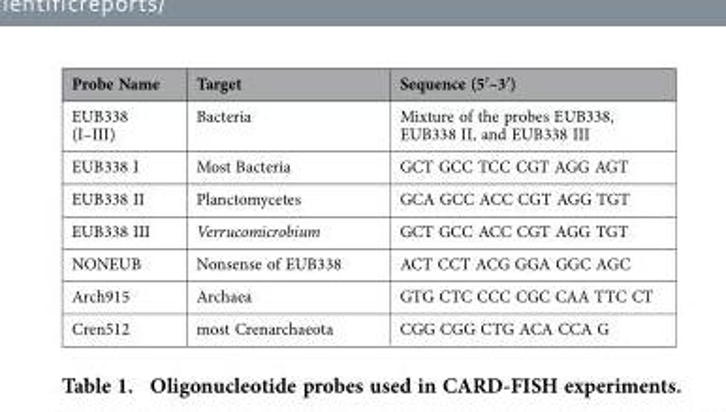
<table><thead><tr><td>Probe Name</td><td>Target</td><td>Sequence (5′–3′)</td></tr></thead><tbody><tr><td>EUB338 (I–III)</td><td>Bacteria</td><td>Mixture of the probes EUB338, EUB338 II, and EUB338 III</td></tr><tr><td>EUB338 I</td><td>Most Bacteria</td><td>GCT GCC TCC CGT AGG AGT</td></tr><tr><td>EUB338 II</td><td>Planctomycetes</td><td>GCA GCC ACC CGT AGG TGT</td></tr><tr><td>EUB338 III</td><td>Verrucomicrobium</td><td>GCT GCC ACC CGT AGG TGT</td></tr><tr><td>NONEUB</td><td>Nonsense of EUB338</td><td>ACT CCT ACG GGA GGC AGC</td></tr><tr><td>Arch915</td><td>Archaea</td><td>GTG CTC CCC CGC CAA TTC CT</td></tr><tr><td>Cren512</td><td>most Crenarchaeota</td><td>CGG CGG CTG ACA CCA G</td></tr></tbody></table>